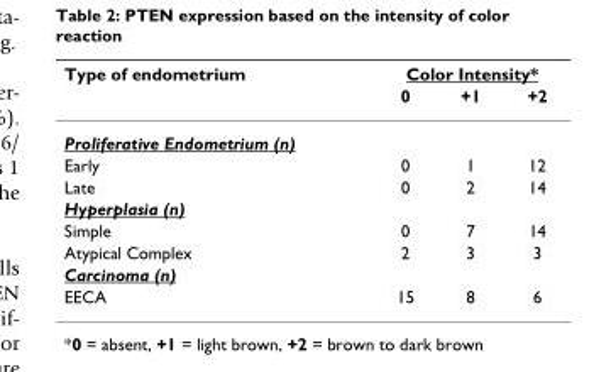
<table><thead><tr><td rowspan="2">Type of endometrium</td><td colspan="3">Color Intensity*</td></tr><tr><td>0</td><td>+1</td><td>+2</td></tr></thead><tbody><tr><td colspan="4">Proliferative Endometrium (n)</td></tr><tr><td>Early</td><td>0</td><td>1</td><td>12</td></tr><tr><td>Late</td><td>0</td><td>2</td><td>14</td></tr><tr><td colspan="4">Hyperplasia (n)</td></tr><tr><td>Simple</td><td>0</td><td>7</td><td>14</td></tr><tr><td>Atypical Complex</td><td>2</td><td>3</td><td>3</td></tr><tr><td colspan="4">Carcinoma (n)</td></tr><tr><td>EECA</td><td>15</td><td>8</td><td>6</td></tr></tbody></table>